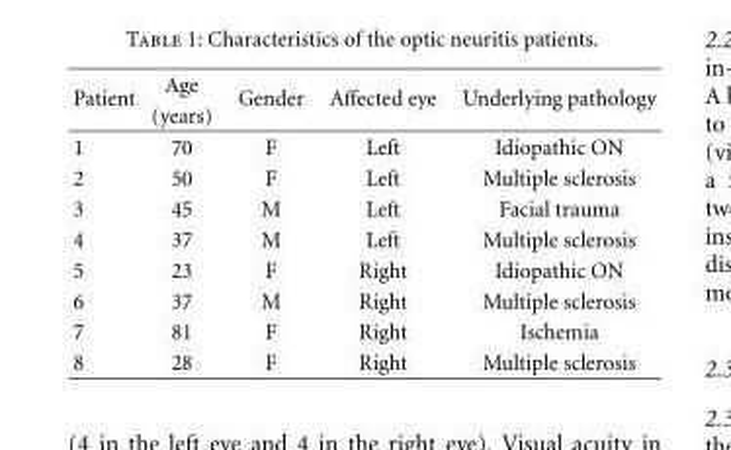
<table><thead><tr><td rowspan="2">Patient</td><td rowspan="2">Age (years)</td><td rowspan="2">Gender</td><td rowspan="2">Affected eye</td><td rowspan="2">Underlying pathology</td></tr><tr></tr></thead><tbody><tr><td>1</td><td>70</td><td>F</td><td>Left</td><td>Idiopathic ON</td></tr><tr><td>2</td><td>50</td><td>F</td><td>Left</td><td>Multiple sclerosis</td></tr><tr><td>3</td><td>45</td><td>M</td><td>Left</td><td>Facial trauma</td></tr><tr><td>4</td><td>37</td><td>M</td><td>Left</td><td>Multiple sclerosis</td></tr><tr><td>5</td><td>23</td><td>F</td><td>Right</td><td>Idiopathic ON</td></tr><tr><td>6</td><td>37</td><td>M</td><td>Right</td><td>Multiple sclerosis</td></tr><tr><td>7</td><td>81</td><td>F</td><td>Right</td><td>Ischemia</td></tr><tr><td>8</td><td>28</td><td>F</td><td>Right</td><td>Multiple sclerosis</td></tr></tbody></table>